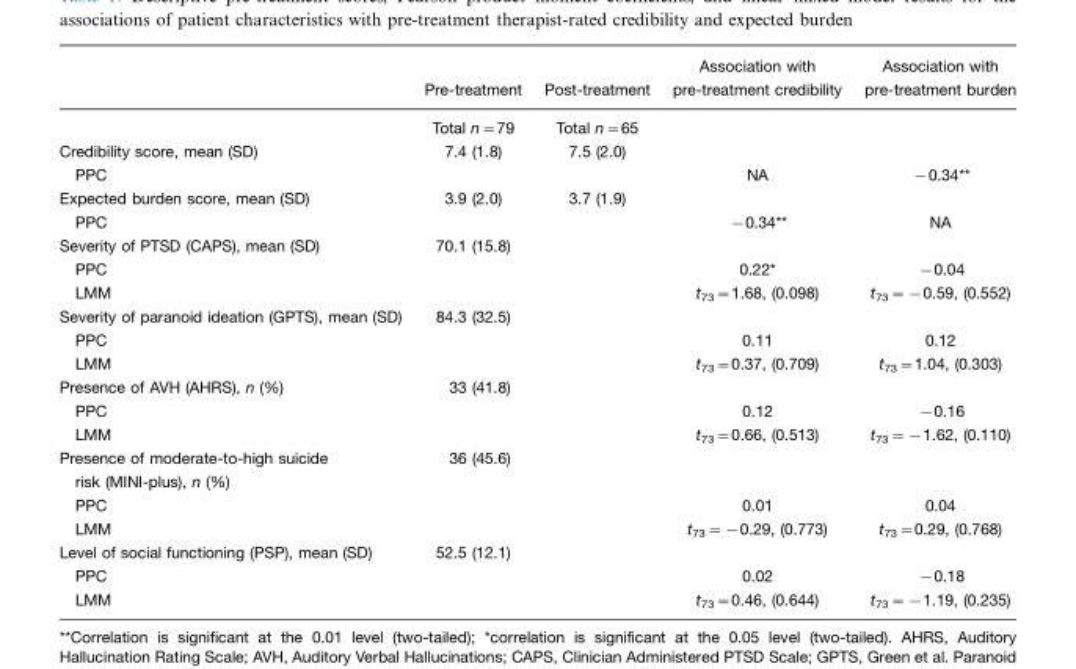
<table><thead><tr><td></td><td>Pre-treatment</td><td>Post-treatment</td><td>Association with pre-treatment credibility</td><td>Association with pre-treatment burden</td></tr></thead><tbody><tr><td></td><td>Total n=79</td><td>Total n=65</td><td></td><td></td></tr><tr><td>Credibility score, mean (SD)</td><td>7.4 (1.8)</td><td>7.5 (2.0)</td><td></td><td></td></tr><tr><td>PPC</td><td></td><td></td><td>NA</td><td>−0.34**</td></tr><tr><td>Expected burden score, mean (SD)</td><td>3.9 (2.0)</td><td>3.7 (1.9)</td><td></td><td></td></tr><tr><td>PPC</td><td></td><td></td><td>−0.34**</td><td>NA</td></tr><tr><td>Severity of PTSD (CAPS), mean (SD)</td><td>70.1 (15.8)</td><td></td><td></td><td></td></tr><tr><td>PPC</td><td></td><td></td><td>0.22*</td><td>−0.04</td></tr><tr><td>LMM</td><td></td><td></td><td>t<sub>73</sub>=1.68, (0.098)</td><td>t<sub>73</sub>=−0.59, (0.552)</td></tr><tr><td>Severity of paranoid ideation (GPTS), mean (SD)</td><td>84.3 (32.5)</td><td></td><td></td><td></td></tr><tr><td>PPC</td><td></td><td></td><td>0.11</td><td>0.12</td></tr><tr><td>LMM</td><td></td><td></td><td>t<sub>73</sub>=0.37, (0.709)</td><td>t<sub>73</sub>=1.04, (0.303)</td></tr><tr><td>Presence of AVH (AHRS), n (%)</td><td>33 (41.8)</td><td></td><td></td><td></td></tr><tr><td>PPC</td><td></td><td></td><td>0.12</td><td>−0.16</td></tr><tr><td>LMM</td><td></td><td></td><td>t<sub>73</sub>=0.66, (0.513)</td><td>t<sub>73</sub>=−1.62, (0.110)</td></tr><tr><td>Presence of moderate-to-high suicide risk (MINI-plus), n (%)</td><td>36 (45.6)</td><td></td><td></td><td></td></tr><tr><td>PPC</td><td></td><td></td><td>0.01</td><td>0.04</td></tr><tr><td>LMM</td><td></td><td></td><td>t<sub>73</sub>=−0.29, (0.773)</td><td>t<sub>73</sub>=0.29, (0.768)</td></tr><tr><td>Level of social functioning (PSP), mean (SD)</td><td>52.5 (12.1)</td><td></td><td></td><td></td></tr><tr><td>PPC</td><td></td><td></td><td>0.02</td><td>−0.18</td></tr><tr><td>LMM</td><td></td><td></td><td>t<sub>73</sub>=0.46, (0.644)</td><td>t<sub>73</sub>=−1.19, (0.235)</td></tr></tbody></table>